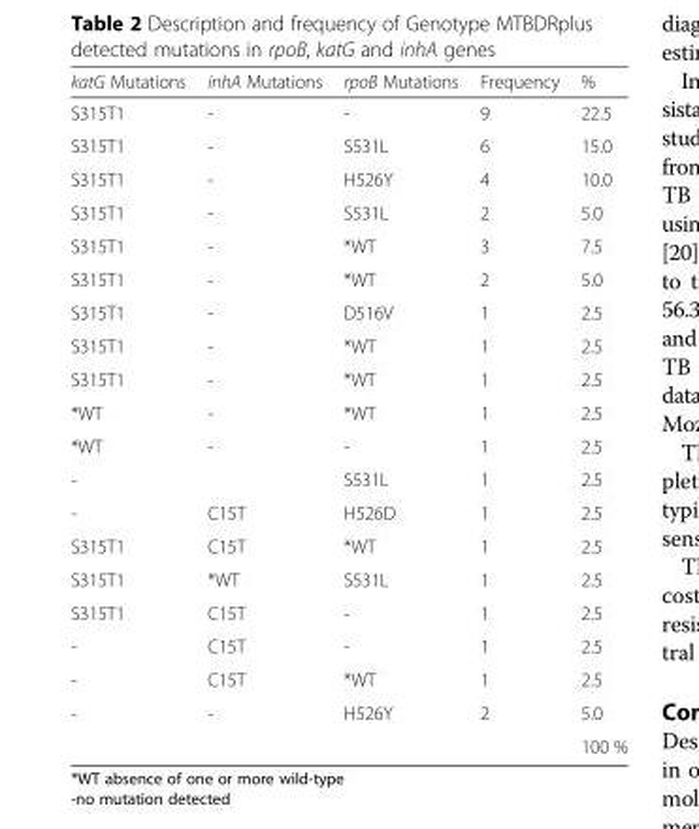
<table><thead><tr><td>katG Mutations</td><td>inhA Mutations</td><td>rpoB Mutations</td><td>Frequency</td><td>%</td></tr></thead><tbody><tr><td>S315T1</td><td>-</td><td>-</td><td>9</td><td>22.5</td></tr><tr><td>S315T1</td><td>-</td><td>S531L</td><td>6</td><td>15.0</td></tr><tr><td>S315T1</td><td>-</td><td>H526Y</td><td>4</td><td>10.0</td></tr><tr><td>S315T1</td><td>-</td><td>S531L</td><td>2</td><td>5.0</td></tr><tr><td>S315T1</td><td>-</td><td>*WT</td><td>3</td><td>7.5</td></tr><tr><td>S315T1</td><td>-</td><td>*WT</td><td>2</td><td>5.0</td></tr><tr><td>S315T1</td><td>-</td><td>D516V</td><td>1</td><td>2.5</td></tr><tr><td>S315T1</td><td>-</td><td>*WT</td><td>1</td><td>2.5</td></tr><tr><td>S315T1</td><td>-</td><td>*WT</td><td>1</td><td>2.5</td></tr><tr><td>*WT</td><td>-</td><td>*WT</td><td>1</td><td>2.5</td></tr><tr><td>*WT</td><td>-</td><td>-</td><td>1</td><td>2.5</td></tr><tr><td>-</td><td></td><td>S531L</td><td>1</td><td>2.5</td></tr><tr><td>-</td><td>C15T</td><td>H526D</td><td>1</td><td>2.5</td></tr><tr><td>S315T1</td><td>C15T</td><td>*WT</td><td>1</td><td>2.5</td></tr><tr><td>S315T1</td><td>*WT</td><td>S531L</td><td>1</td><td>2.5</td></tr><tr><td>S315T1</td><td>C15T</td><td>-</td><td>1</td><td>2.5</td></tr><tr><td>-</td><td>C15T</td><td>-</td><td>1</td><td>2.5</td></tr><tr><td>-</td><td>C15T</td><td>*WT</td><td>1</td><td>2.5</td></tr><tr><td rowspan="2">-</td><td>-</td><td>H526Y</td><td>2</td><td>5.0</td></tr><tr><td></td><td></td><td></td><td>100 %</td></tr></tbody></table>